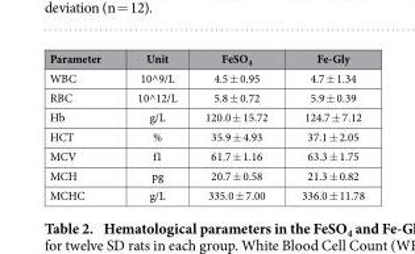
<table><thead><tr><td>Parameter</td><td>Unit</td><td>FeSO<sub>4</sub></td><td>Fe-Gly</td></tr></thead><tbody><tr><td>WBC</td><td>10^9/L</td><td>4.5 ± 0.95</td><td>4.7 ± 1.34</td></tr><tr><td>RBC</td><td>10^12/L</td><td>5.8 ± 0.72</td><td>5.9 ± 0.39</td></tr><tr><td>Hb</td><td>g/L</td><td>120.0 ± 15.72</td><td>124.7 ± 7.12</td></tr><tr><td>HCT</td><td>%</td><td>35.9 ± 4.93</td><td>37.1 ± 2.05</td></tr><tr><td>MCV</td><td>f1</td><td>61.7 ± 1.16</td><td>63.3 ± 1.75</td></tr><tr><td>MCH</td><td>pg</td><td>20.7 ± 0.58</td><td>21.3 ± 0.82</td></tr><tr><td>MCHC</td><td>g/L</td><td>335.0 ± 7.00</td><td>336.0 ± 11.78</td></tr></tbody></table>